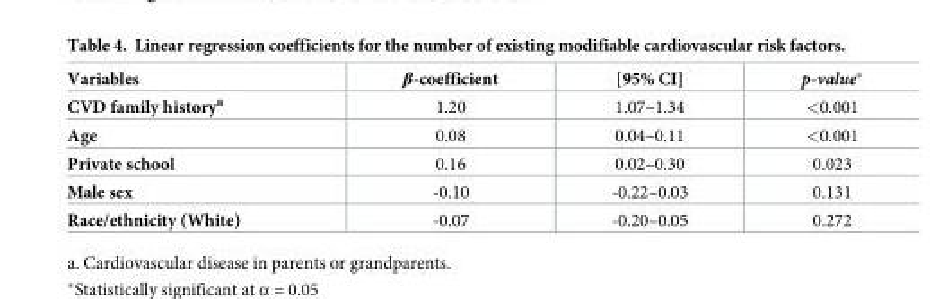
<table><thead><tr><td>Variables</td><td>β-coefficient</td><td>[95% CI]</td><td>p-value*</td></tr></thead><tbody><tr><td>CVD family history<sup>a</sup></td><td>1.20</td><td>1.07–1.34</td><td>&lt;0.001</td></tr><tr><td>Age</td><td>0.08</td><td>0.04–0.11</td><td>&lt;0.001</td></tr><tr><td>Private school</td><td>0.16</td><td>0.02–0.30</td><td>0.023</td></tr><tr><td>Male sex</td><td>-0.10</td><td>-0.22–0.03</td><td>0.131</td></tr><tr><td>Race/ethnicity (White)</td><td>-0.07</td><td>-0.20–0.05</td><td>0.272</td></tr></tbody></table>